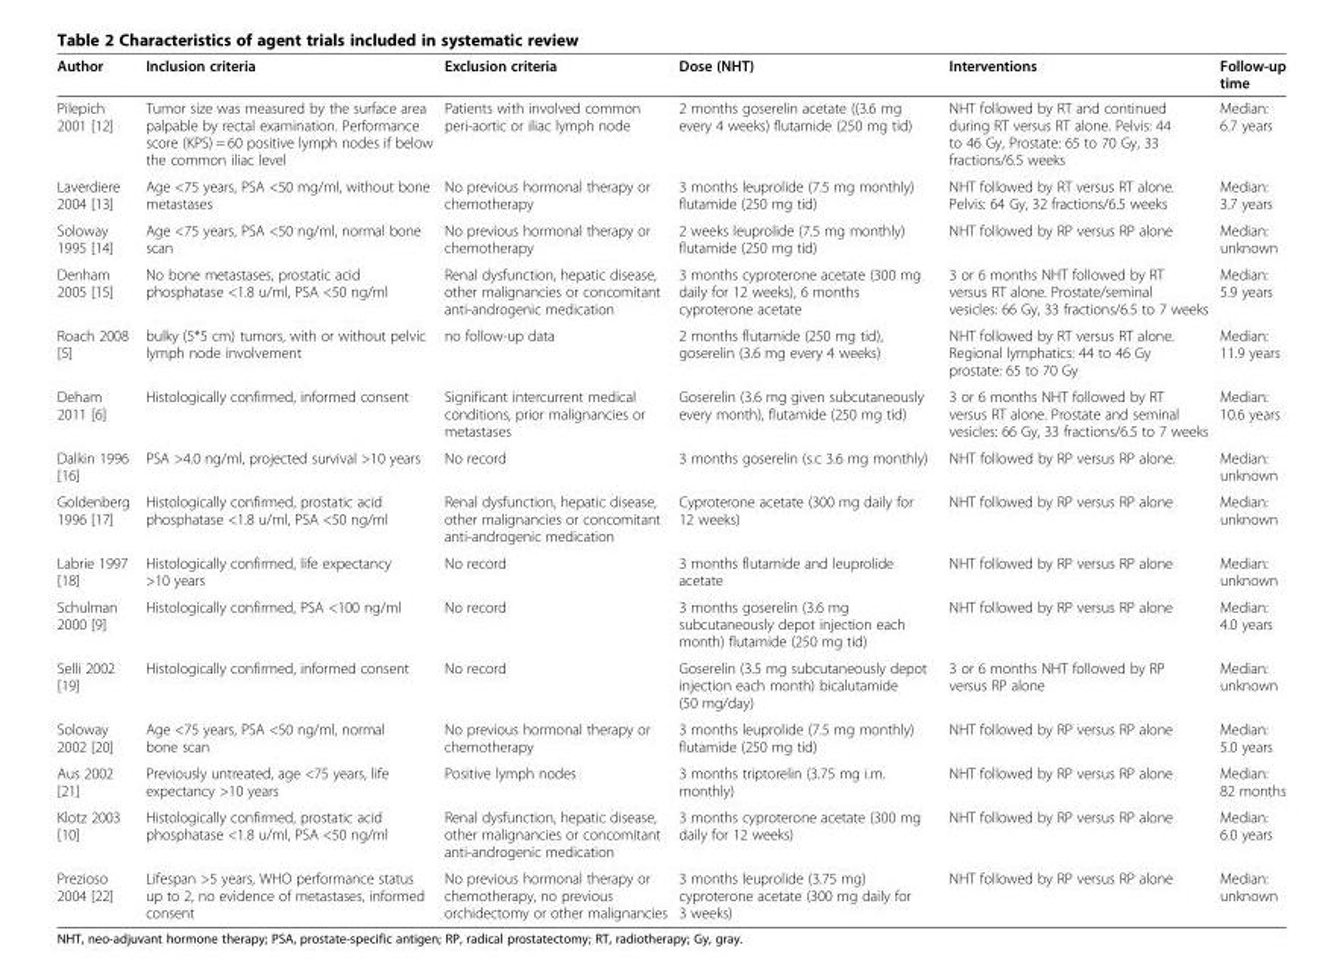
<table><thead><tr><td>Author</td><td>Inclusion criteria</td><td>Exclusion criteria</td><td>Dose (NHT)</td><td>Interventions</td><td>Follow-up time</td></tr></thead><tbody><tr><td>Pilepich 2001 [12]</td><td>Tumor size was measured by the surface area palpable by rectal examination. Performance score (KPS) = 60 positive lymph nodes if below the common iliac level</td><td>Patients with involved common peri-aortic or iliac lymph node</td><td>2 months goserelin acetate ((3.6 mg every 4 weeks) flutamide (250 mg tid)</td><td>NHT followed by RT and continued during RT versus RT alone. Pelvis: 44 to 46 Gy, Prostate: 65 to 70 Gy, 33 fractions/6.5 weeks</td><td>Median: 6.7 years</td></tr><tr><td>Laverdiere 2004 [13]</td><td>Age &lt;75 years, PSA &lt;50 mg/ml, without bone metastases</td><td>No previous hormonal therapy or chemotherapy</td><td>3 months leuprolide (7.5 mg monthly) flutamide (250 mg tid)</td><td>NHT followed by RT versus RT alone. Pelvis: 64 Gy, 32 fractions/6.5 weeks</td><td>Median: 3.7 years</td></tr><tr><td>Soloway 1995 [14]</td><td>Age &lt;75 years, PSA &lt;50 ng/ml, normal bone scan</td><td>No previous hormonal therapy or chemotherapy</td><td>2 weeks leuprolide (7.5 mg monthly) flutamide (250 mg tid)</td><td>NHT followed by RP versus RP alone</td><td>Median: unknown</td></tr><tr><td>Denham 2005 [15]</td><td>No bone metastases, prostatic acid phosphatase &lt;1.8 u/ml, PSA &lt;50 ng/ml</td><td>Renal dysfunction, hepatic disease, other malignancies or concomitant anti-androgenic medication</td><td>3 months cyproterone acetate (300 mg daily for 12 weeks), 6 months cyproterone acetate</td><td>3 or 6 months NHT followed by RT versus RT alone. Prostate/seminal vesicles: 66 Gy, 33 fractions/6.5 to 7 weeks</td><td>Median: 5.9 years</td></tr><tr><td>Roach 2008 [5]</td><td>bulky (5*5 cm) tumors, with or without pelvic lymph node involvement</td><td>no follow-up data</td><td>2 months flutamide (250 mg tid), goserelin (3.6 mg every 4 weeks)</td><td>NHT followed by RT versus RT alone. Regional lymphatics: 44 to 46 Gy prostate: 65 to 70 Gy</td><td>Median: 11.9 years</td></tr><tr><td>Deham 2011 [6]</td><td>Histologically confirmed, informed consent</td><td>Significant intercurrent medical conditions, prior malignancies or metastases</td><td>Goserelin (3.6 mg given subcutaneously every month), flutamide (250 mg tid)</td><td>3 or 6 months NHT followed by RT versus RT alone. Prostate and seminal vesicles: 66 Gy, 33 fractions/6.5 to 7 weeks</td><td>Median: 10.6 years</td></tr><tr><td>Dalkin 1996 [16]</td><td>PSA &gt;4.0 ng/ml, projected survival &gt;10 years</td><td>No record</td><td>3 months goserelin (s.c 3.6 mg monthly)</td><td>NHT followed by RP versus RP alone.</td><td>Median: unknown</td></tr><tr><td>Goldenberg 1996 [17]</td><td>Histologically confirmed, prostatic acid phosphatase &lt;1.8 u/ml, PSA &lt;50 ng/ml</td><td>Renal dysfunction, hepatic disease, other malignancies or concomitant anti-androgenic medication</td><td>Cyproterone acetate (300 mg daily for 12 weeks)</td><td>NHT followed by RP versus RP alone</td><td>Median: unknown</td></tr><tr><td>Labrie 1997 [18]</td><td>Histologically confirmed, life expectancy &gt;10 years</td><td>No record</td><td>3 months flutamide and leuprolide acetate</td><td>NHT followed by RP versus RP alone</td><td>Median: unknown</td></tr><tr><td>Schulman 2000 [9]</td><td>Histologically confirmed, PSA &lt;100 ng/ml</td><td>No record</td><td>3 months goserelin (3.6 mg subcutaneously depot injection each month) flutamide (250 mg tid)</td><td>NHT followed by RP versus RP alone</td><td>Median: 4.0 years</td></tr><tr><td>Selli 2002 [19]</td><td>Histologically confirmed, informed consent</td><td>No record</td><td>Goserelin (3.5 mg subcutaneously depot injection each month) bicalutamide (50 mg/day)</td><td>3 or 6 months NHT followed by RP versus RP alone</td><td>Median: unknown</td></tr><tr><td>Soloway 2002 [20]</td><td>Age &lt;75 years, PSA &lt;50 ng/ml, normal bone scan</td><td>No previous hormonal therapy or chemotherapy</td><td>3 months leuprolide (7.5 mg monthly) flutamide (250 mg tid)</td><td>NHT followed by RP versus RP alone</td><td>Median: 5.0 years</td></tr><tr><td>Aus 2002 [21]</td><td>Previously untreated, age &lt;75 years, life expectancy &gt;10 years</td><td>Positive lymph nodes</td><td>3 months triptorelin (3.75 mg i.m. monthly)</td><td>NHT followed by RP versus RP alone</td><td>Median: 82 months</td></tr><tr><td>Klotz 2003 [10]</td><td>Histologically confirmed, prostatic acid phosphatase &lt;1.8 u/ml, PSA &lt;50 ng/ml</td><td>Renal dysfunction, hepatic disease, other malignancies or concomitant anti-androgenic medication</td><td>3 months cyproterone acetate (300 mg daily for 12 weeks)</td><td>NHT followed by RP versus RP alone</td><td>Median: 6.0 years</td></tr><tr><td>Prezioso 2004 [22]</td><td>Lifespan &gt;5 years, WHO performance status up to 2, no evidence of metastases, informed consent</td><td>No previous hormonal therapy or chemotherapy, no previous orchidectomy or other malignancies</td><td>3 months leuprolide (3.75 mg) cyproterone acetate (300 mg daily for 3 weeks)</td><td>NHT followed by RP versus RP alone</td><td>Median: unknown</td></tr></tbody></table>